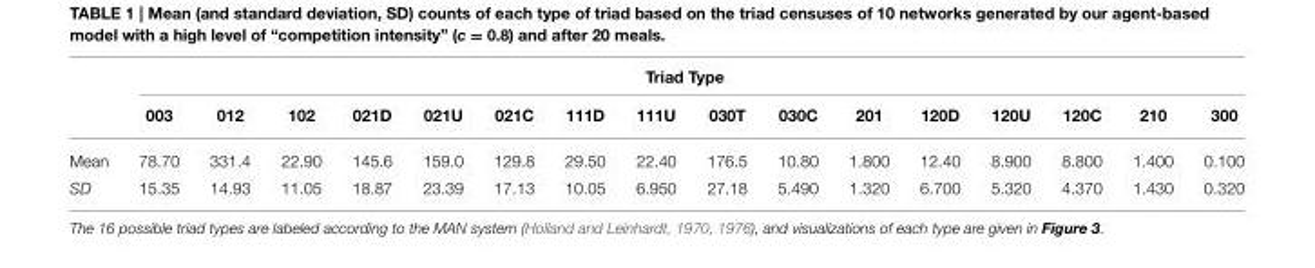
<table><thead><tr><td rowspan="2"></td><td colspan="16">Triad Type</td></tr><tr><td>003</td><td>012</td><td>102</td><td>021D</td><td>021U</td><td>021C</td><td>111D</td><td>111U</td><td>030T</td><td>030C</td><td>201</td><td>120D</td><td>120U</td><td>120C</td><td>210</td><td>300</td></tr></thead><tbody><tr><td>Mean</td><td>78.70</td><td>331.4</td><td>22.90</td><td>145.6</td><td>159.0</td><td>129.8</td><td>29.50</td><td>22.40</td><td>176.5</td><td>10.80</td><td>1.800</td><td>12.40</td><td>8.900</td><td>8.800</td><td>1.400</td><td>0.100</td></tr><tr><td>SD</td><td>15.35</td><td>14.93</td><td>11.05</td><td>18.87</td><td>23.39</td><td>17.13</td><td>10.05</td><td>6.950</td><td>27.18</td><td>5.490</td><td>1.320</td><td>6.700</td><td>5.320</td><td>4.370</td><td>1.430</td><td>0.320</td></tr></tbody></table>